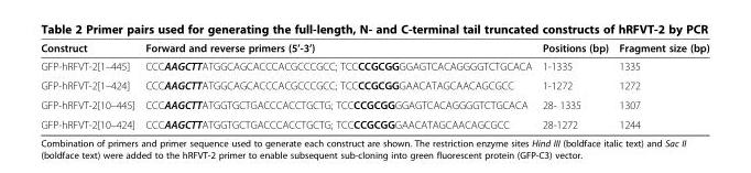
<table><thead><tr><td>Construct</td><td>Forward and reverse primers (5’-3’)</td><td>Positions (bp)</td><td>Fragment size (bp)</td></tr></thead><tbody><tr><td>GFP-hRFVT-2[1–445]</td><td>CCCAAGCTTATGGCAGCACCCACGCCCGCC; TCCCCGCGGGGAGTCACAGGGGTCTGCACA</td><td>1-1335</td><td>1335</td></tr><tr><td>GFP-hRFVT-2[1–424]</td><td>CCCAAGCTTATGGCAGCACCCACGCCCGCC; TCCCCGCGGGAACATAGCAACAGCGCC</td><td>1-1272</td><td>1272</td></tr><tr><td>GFP-hRFVT-2[10–445]</td><td>CCCAAGCTTATGGTGCTGACCCACCTGCTG; TCCCCGCGGGGAGTCACAGGGGTCTGCACA</td><td>28- 1335</td><td>1307</td></tr><tr><td>GFP-hRFVT-2[10–424]</td><td>CCCAAGCTTATGGTGCTGACCCACCTGCTG; TCCCCGCGGGAACATAGCAACAGCGCC</td><td>28-1272</td><td>1244</td></tr></tbody></table>